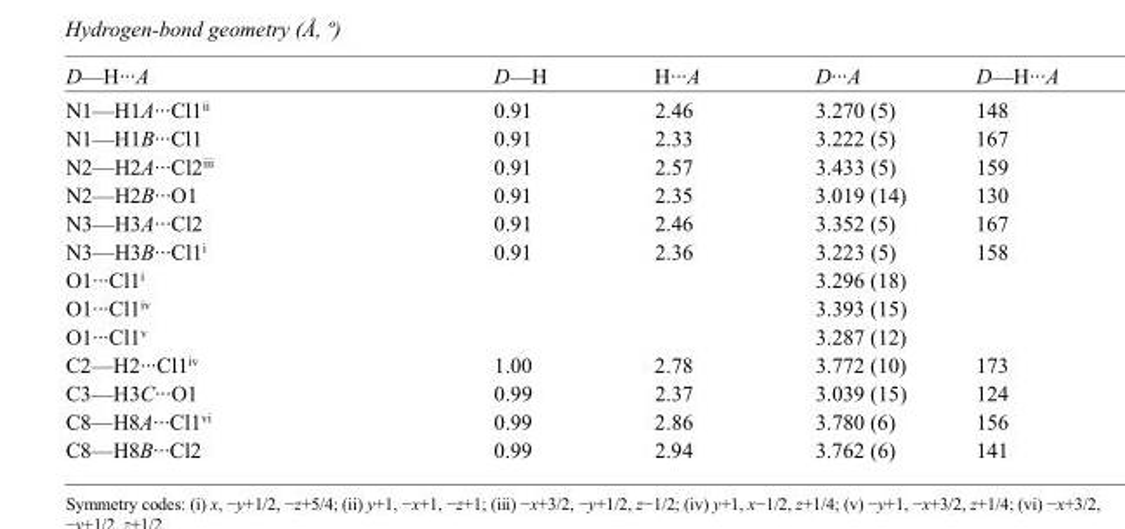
<table><tbody><tr><td>D—H···A</td><td>D—H</td><td>H···A</td><td>D···A</td><td>D—H···A</td></tr><tr><td>N1—H1A···Cl1<sup>ii</sup></td><td>0.91</td><td>2.46</td><td>3.270 (5)</td><td>148</td></tr><tr><td>N1—H1B···Cl1</td><td>0.91</td><td>2.33</td><td>3.222 (5)</td><td>167</td></tr><tr><td>N2—H2A···Cl2<sup>iii</sup></td><td>0.91</td><td>2.57</td><td>3.433 (5)</td><td>159</td></tr><tr><td>N2—H2B···O1</td><td>0.91</td><td>2.35</td><td>3.019 (14)</td><td>130</td></tr><tr><td>N3—H3A···Cl2</td><td>0.91</td><td>2.46</td><td>3.352 (5)</td><td>167</td></tr><tr><td>N3—H3B···Cl1<sup>i</sup></td><td>0.91</td><td>2.36</td><td>3.223 (5)</td><td>158</td></tr><tr><td>O1···Cl1<sup>i</sup></td><td></td><td></td><td>3.296 (18)</td><td></td></tr><tr><td>O1···Cl1<sup>iv</sup></td><td></td><td></td><td>3.393 (15)</td><td></td></tr><tr><td>O1···Cl1<sup>v</sup></td><td></td><td></td><td>3.287 (12)</td><td></td></tr><tr><td>C2—H2···Cl1<sup>iv</sup></td><td>1.00</td><td>2.78</td><td>3.772 (10)</td><td>173</td></tr><tr><td>C3—H3C···O1</td><td>0.99</td><td>2.37</td><td>3.039 (15)</td><td>124</td></tr><tr><td>C8—H8A···Cl1<sup>vi</sup></td><td>0.99</td><td>2.86</td><td>3.780 (6)</td><td>156</td></tr><tr><td>C8—H8B···Cl2</td><td>0.99</td><td>2.94</td><td>3.762 (6)</td><td>141</td></tr></tbody></table>